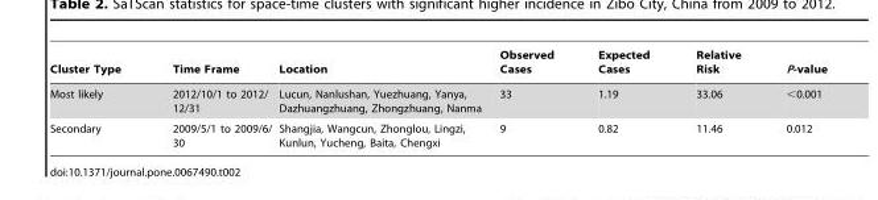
<table><thead><tr><td>Cluster Type</td><td>Time Frame</td><td>Location</td><td>Observed Cases</td><td>Expected Cases</td><td>Relative Risk</td><td>P-value</td></tr></thead><tbody><tr><td>Most likely</td><td>2012/10/1 to 2012/ 12/31</td><td>Lucun, Nanlushan, Yuezhuang, Yanya, Dazhuangzhuang, Zhongzhuang, Nanma</td><td>33</td><td>1.19</td><td>33.06</td><td>&lt;0.001</td></tr><tr><td>Secondary</td><td>2009/5/1 to 2009/6/ 30</td><td>Shangjia, Wangcun, Zhonglou, Lingzi, Kunlun, Yucheng, Baita, Chengxi</td><td>9</td><td>0.82</td><td>11.46</td><td>0.012</td></tr></tbody></table>